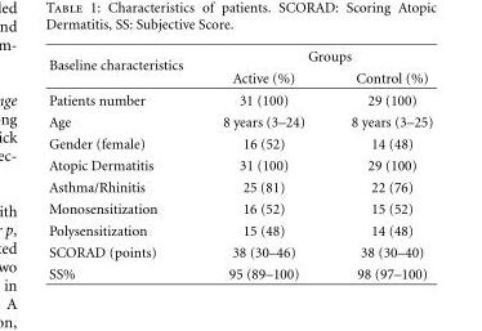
<table><thead><tr><td rowspan="2">Baseline characteristics</td><td colspan="2">Groups</td></tr><tr><td>Active (%)</td><td>Control (%)</td></tr></thead><tbody><tr><td>Patients number</td><td>31 (100)</td><td>29 (100)</td></tr><tr><td>Age</td><td>8 years (3–24)</td><td>8 years (3–25)</td></tr><tr><td>Gender (female)</td><td>16 (52)</td><td>14 (48)</td></tr><tr><td>Atopic Dermatitis</td><td>31 (100)</td><td>29 (100)</td></tr><tr><td>Asthma/Rhinitis</td><td>25 (81)</td><td>22 (76)</td></tr><tr><td>Monosensitization</td><td>16 (52)</td><td>15 (52)</td></tr><tr><td>Polysensitization</td><td>15 (48)</td><td>14 (48)</td></tr><tr><td>SCORAD (points)</td><td>38 (30–46)</td><td>38 (30–40)</td></tr><tr><td>SS%</td><td>95 (89–100)</td><td>98 (97–100)</td></tr></tbody></table>